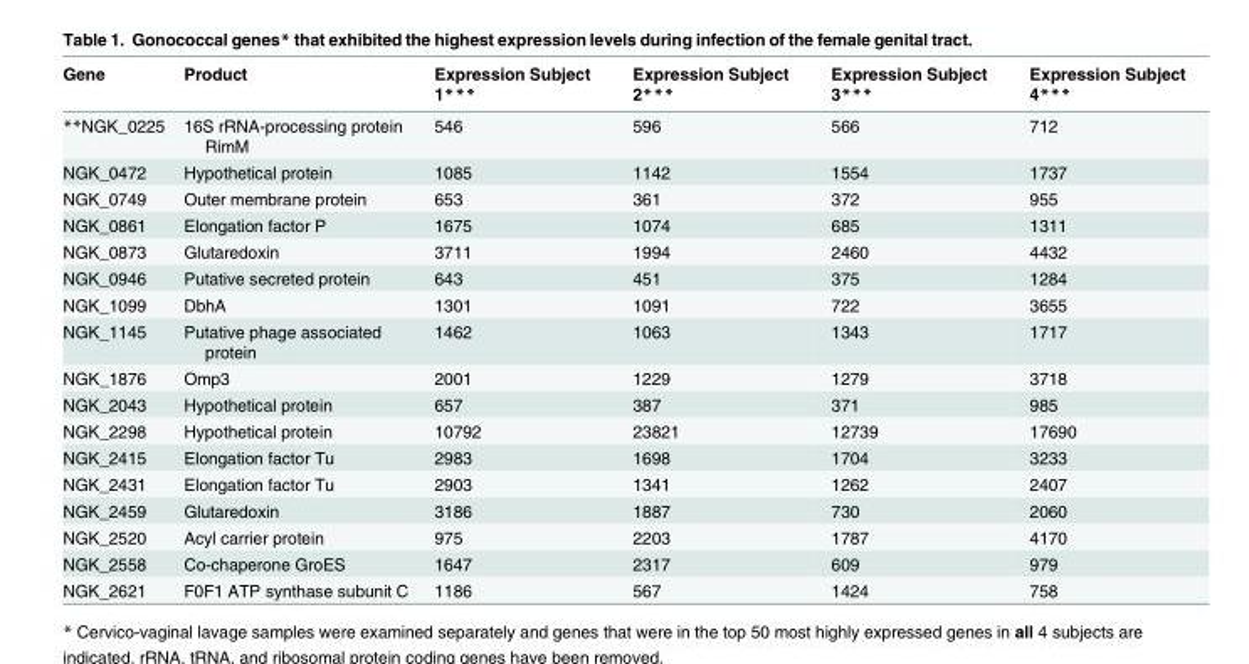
<table><thead><tr><td>Gene</td><td>Product</td><td>Expression Subject 1***</td><td>Expression Subject 2***</td><td>Expression Subject 3***</td><td>Expression Subject 4***</td></tr></thead><tbody><tr><td>**NGK_0225</td><td>16S rRNA-processing protein RimM</td><td>546</td><td>596</td><td>566</td><td>712</td></tr><tr><td>NGK_0472</td><td>Hypothetical protein</td><td>1085</td><td>1142</td><td>1554</td><td>1737</td></tr><tr><td>NGK_0749</td><td>Outer membrane protein</td><td>653</td><td>361</td><td>372</td><td>955</td></tr><tr><td>NGK_0861</td><td>Elongation factor P</td><td>1675</td><td>1074</td><td>685</td><td>1311</td></tr><tr><td>NGK_0873</td><td>Glutaredoxin</td><td>3711</td><td>1994</td><td>2460</td><td>4432</td></tr><tr><td>NGK_0946</td><td>Putative secreted protein</td><td>643</td><td>451</td><td>375</td><td>1284</td></tr><tr><td>NGK_1099</td><td>DbhA</td><td>1301</td><td>1091</td><td>722</td><td>3655</td></tr><tr><td>NGK_1145</td><td>Putative phage associated protein</td><td>1462</td><td>1063</td><td>1343</td><td>1717</td></tr><tr><td>NGK_1876</td><td>Omp3</td><td>2001</td><td>1229</td><td>1279</td><td>3718</td></tr><tr><td>NGK_2043</td><td>Hypothetical protein</td><td>657</td><td>387</td><td>371</td><td>985</td></tr><tr><td>NGK_2298</td><td>Hypothetical protein</td><td>10792</td><td>23821</td><td>12739</td><td>17690</td></tr><tr><td>NGK_2415</td><td>Elongation factor Tu</td><td>2983</td><td>1698</td><td>1704</td><td>3233</td></tr><tr><td>NGK_2431</td><td>Elongation factor Tu</td><td>2903</td><td>1341</td><td>1262</td><td>2407</td></tr><tr><td>NGK_2459</td><td>Glutaredoxin</td><td>3186</td><td>1887</td><td>730</td><td>2060</td></tr><tr><td>NGK_2520</td><td>Acyl carrier protein</td><td>975</td><td>2203</td><td>1787</td><td>4170</td></tr><tr><td>NGK_2558</td><td>Co-chaperone GroES</td><td>1647</td><td>2317</td><td>609</td><td>979</td></tr><tr><td>NGK_2621</td><td>F0F1 ATP synthase subunit C</td><td>1186</td><td>567</td><td>1424</td><td>758</td></tr></tbody></table>